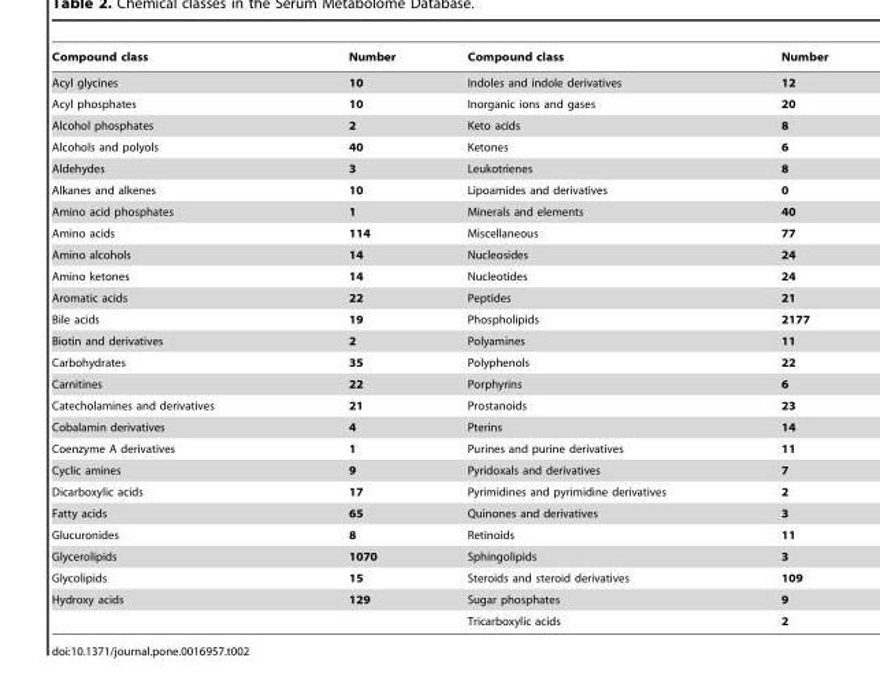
<table><thead><tr><td>Compound class</td><td>Number</td><td>Compound class</td><td>Number</td></tr></thead><tbody><tr><td>Acyl glycines</td><td>10</td><td>Indoles and indole derivatives</td><td>12</td></tr><tr><td>Acyl phosphates</td><td>10</td><td>Inorganic ions and gases</td><td>20</td></tr><tr><td>Alcohol phosphates</td><td>2</td><td>Keto acids</td><td>8</td></tr><tr><td>Alcohols and polyols</td><td>40</td><td>Ketones</td><td>6</td></tr><tr><td>Aldehydes</td><td>3</td><td>Leukotrienes</td><td>8</td></tr><tr><td>Alkanes and alkenes</td><td>10</td><td>Lipoamides and derivatives</td><td>0</td></tr><tr><td>Amino acid phosphates</td><td>1</td><td>Minerals and elements</td><td>40</td></tr><tr><td>Amino acids</td><td>114</td><td>Miscellaneous</td><td>77</td></tr><tr><td>Amino alcohols</td><td>14</td><td>Nucleosides</td><td>24</td></tr><tr><td>Amino ketones</td><td>14</td><td>Nucleotides</td><td>24</td></tr><tr><td>Aromatic acids</td><td>22</td><td>Peptides</td><td>21</td></tr><tr><td>Bile acids</td><td>19</td><td>Phospholipids</td><td>2177</td></tr><tr><td>Biotin and derivatives</td><td>2</td><td>Polyamines</td><td>11</td></tr><tr><td>Carbohydrates</td><td>35</td><td>Polyphenols</td><td>22</td></tr><tr><td>Carnitines</td><td>22</td><td>Porphyrins</td><td>6</td></tr><tr><td>Catecholamines and derivatives</td><td>21</td><td>Prostanoids</td><td>23</td></tr><tr><td>Cobalamin derivatives</td><td>4</td><td>Pterins</td><td>14</td></tr><tr><td>Coenzyme A derivatives</td><td>1</td><td>Purines and purine derivatives</td><td>11</td></tr><tr><td>Cyclic amines</td><td>9</td><td>Pyridoxals and derivatives</td><td>7</td></tr><tr><td>Dicarboxylic acids</td><td>17</td><td>Pyrimidines and pyrimidine derivatives</td><td>2</td></tr><tr><td>Fatty acids</td><td>65</td><td>Quinones and derivatives</td><td>3</td></tr><tr><td>Glucuronides</td><td>8</td><td>Retinoids</td><td>11</td></tr><tr><td>Glycerolipids</td><td>1070</td><td>Sphingolipids</td><td>3</td></tr><tr><td>Glycolipids</td><td>15</td><td>Steroids and steroid derivatives</td><td>109</td></tr><tr><td rowspan="2">Hydroxy acids</td><td>129</td><td>Sugar phosphates</td><td>9</td></tr><tr><td></td><td>Tricarboxylic acids</td><td>2</td></tr></tbody></table>